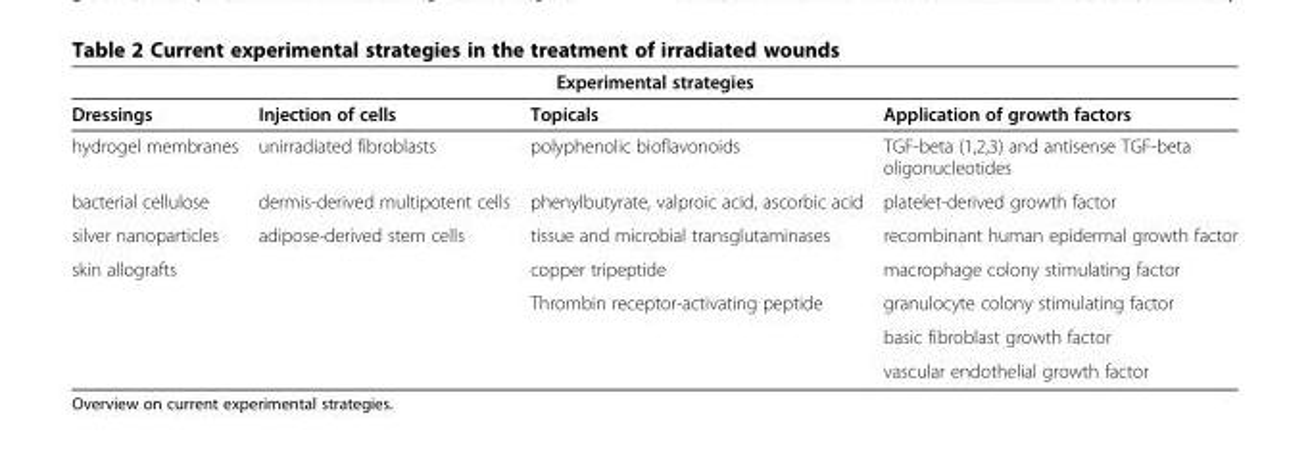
<table><thead><tr><td colspan="4">Experimental strategies</td></tr><tr><td>Dressings</td><td>Injection of cells</td><td>Topicals</td><td>Application of growth factors</td></tr></thead><tbody><tr><td>hydrogel membranes</td><td>unirradiated fibroblasts</td><td>polyphenolic bioflavonoids</td><td>TGF-beta (1,2,3) and antisense TGF-beta oligonucleotides</td></tr><tr><td>bacterial cellulose</td><td>dermis-derived multipotent cells</td><td>phenylbutyrate, valproic acid, ascorbic acid</td><td>platelet-derived growth factor</td></tr><tr><td>silver nanoparticles</td><td>adipose-derived stem cells</td><td>tissue and microbial transglutaminases</td><td>recombinant human epidermal growth factor</td></tr><tr><td rowspan="4">skin allografts</td><td></td><td>copper tripeptide</td><td>macrophage colony stimulating factor</td></tr><tr><td></td><td>Thrombin receptor-activating peptide</td><td>granulocyte colony stimulating factor</td></tr><tr><td></td><td></td><td>basic fibroblast growth factor</td></tr><tr><td></td><td></td><td>vascular endothelial growth factor</td></tr></tbody></table>